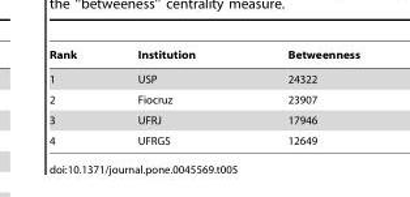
<table><thead><tr><td>Rank</td><td>Institution</td><td>Betweenness</td></tr></thead><tbody><tr><td>1</td><td>USP</td><td>24322</td></tr><tr><td>2</td><td>Fiocruz</td><td>23907</td></tr><tr><td>3</td><td>UFRJ</td><td>17946</td></tr><tr><td>4</td><td>UFRGS</td><td>12649</td></tr></tbody></table>